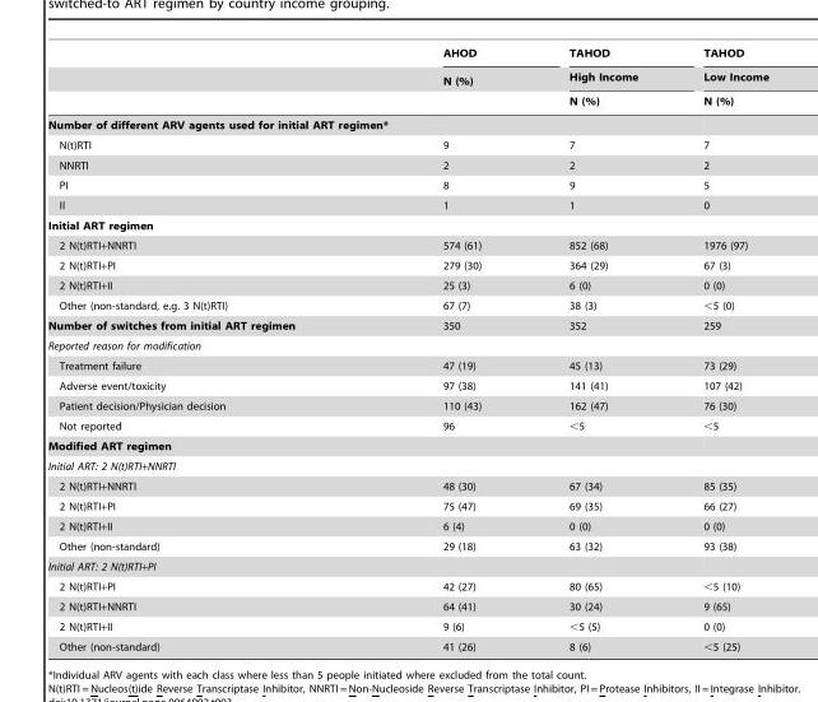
<table><thead><tr><td rowspan="3"></td><td rowspan="3">AHOD N (%)</td><td rowspan="3">TAHOD High Income N (%)</td><td rowspan="3">TAHOD Low Income N (%)</td></tr><tr></tr><tr></tr></thead><tbody><tr><td colspan="4">Number of different ARV agents used for initial ART regimen*</td></tr><tr><td>N(t)RTI</td><td>9</td><td>7</td><td>7</td></tr><tr><td>NNRTI</td><td>2</td><td>2</td><td>2</td></tr><tr><td>PI</td><td>8</td><td>9</td><td>5</td></tr><tr><td>II</td><td>1</td><td>1</td><td>0</td></tr><tr><td colspan="4">Initial ART regimen</td></tr><tr><td>2 N(t)RTI+NNRTI</td><td>574 (61)</td><td>852 (68)</td><td>1976 (97)</td></tr><tr><td>2 N(t)RTI+PI</td><td>279 (30)</td><td>364 (29)</td><td>67 (3)</td></tr><tr><td>2 N(t)RTI+II</td><td>25 (3)</td><td>6 (0)</td><td>0 (0)</td></tr><tr><td>Other (non-standard, e.g. 3 N(t)RTI)</td><td>67 (7)</td><td>38 (3)</td><td>&lt;5 (0)</td></tr><tr><td>Number of switches from initial ART regimen</td><td>350</td><td>352</td><td>259</td></tr><tr><td colspan="4">Reported reason for modification</td></tr><tr><td>Treatment failure</td><td>47 (19)</td><td>45 (13)</td><td>73 (29)</td></tr><tr><td>Adverse event/toxicity</td><td>97 (38)</td><td>141 (41)</td><td>107 (42)</td></tr><tr><td>Patient decision/Physician decision</td><td>110 (43)</td><td>162 (47)</td><td>76 (30)</td></tr><tr><td>Not reported</td><td>96</td><td>&lt;5</td><td>&lt;5</td></tr><tr><td colspan="4">Modified ART regimen</td></tr><tr><td colspan="4">Initial ART: 2 N(t)RTI+NNRTI</td></tr><tr><td>2 N(t)RTI+NNRTI</td><td>48 (30)</td><td>67 (34)</td><td>85 (35)</td></tr><tr><td>2 N(t)RTI+PI</td><td>75 (47)</td><td>69 (35)</td><td>66 (27)</td></tr><tr><td>2 N(t)RTI+II</td><td>6 (4)</td><td>0 (0)</td><td>0 (0)</td></tr><tr><td>Other (non-standard)</td><td>29 (18)</td><td>63 (32)</td><td>93 (38)</td></tr><tr><td colspan="4">Initial ART: 2 N(t)RTI+PI</td></tr><tr><td>2 N(t)RTI+PI</td><td>42 (27)</td><td>80 (65)</td><td>&lt;5 (10)</td></tr><tr><td>2 N(t)RTI+NNRTI</td><td>64 (41)</td><td>30 (24)</td><td>9 (65)</td></tr><tr><td>2 N(t)RTI+II</td><td>9 (6)</td><td>&lt;5 (5)</td><td>0 (0)</td></tr><tr><td>Other (non-standard)</td><td>41 (26)</td><td>8 (6)</td><td>&lt;5 (25)</td></tr></tbody></table>